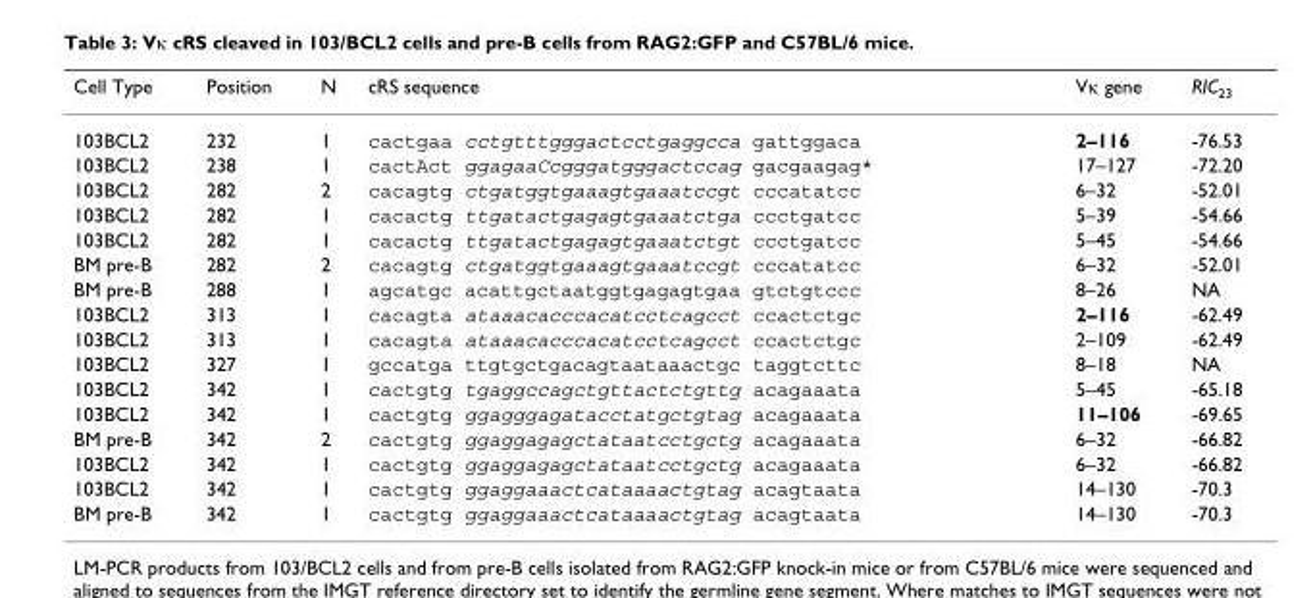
<table><thead><tr><td>Cell Type</td><td>Position</td><td>N</td><td>cRS sequence</td><td>Vκ gene</td><td>RIC<sub>23</sub></td></tr></thead><tbody><tr><td>103BCL2</td><td>232</td><td>1</td><td>cactgaa cctgtttgggactcctgaggcca gattggaca</td><td>2–116</td><td>-76.53</td></tr><tr><td>103BCL2</td><td>238</td><td>1</td><td>cactAct ggagaaCcgggatgggactccag gacgaagag*</td><td>17–127</td><td>-72.20</td></tr><tr><td>103BCL2</td><td>282</td><td>2</td><td>cacagtg ctgatggtgaaagtgaaatccgt cccatatcc</td><td>6–32</td><td>-52.01</td></tr><tr><td>103BCL2</td><td>282</td><td>1</td><td>cacactg ttgatactgagagtgaaatctga ccctgatcc</td><td>5–39</td><td>-54.66</td></tr><tr><td>103BCL2</td><td>282</td><td>1</td><td>cacactg ttgatactgagagtgaaatctgt ccctgatcc</td><td>5–45</td><td>-54.66</td></tr><tr><td>BM pre-B</td><td>282</td><td>2</td><td>cacagtg ctgatggtgaaagtgaaatccgt cccatatcc</td><td>6–32</td><td>-52.01</td></tr><tr><td>BM pre-B</td><td>288</td><td>1</td><td>agcatgc acattgctaatggtgagagtgaa gtctgtccc</td><td>8–26</td><td>NA</td></tr><tr><td>103BCL2</td><td>313</td><td>1</td><td>cacagta ataaacacccacatcctcagcct ccactctgc</td><td>2–116</td><td>-62.49</td></tr><tr><td>103BCL2</td><td>313</td><td>1</td><td>cacagta ataaacacccacatcctcagcct ccactctgc</td><td>2–109</td><td>-62.49</td></tr><tr><td>103BCL2</td><td>327</td><td>1</td><td>gccatga ttgtgctgacagtaataaactgc taggtcttc</td><td>8–18</td><td>NA</td></tr><tr><td>103BCL2</td><td>342</td><td>1</td><td>cactgtg tgaggccagctgttactctgttg acagaaata</td><td>5–45</td><td>-65.18</td></tr><tr><td>103BCL2</td><td>342</td><td>1</td><td>cactgtg ggagggagatacctatgctgtag acagaaata</td><td>11–106</td><td>-69.65</td></tr><tr><td>BM pre-B</td><td>342</td><td>2</td><td>cactgtg ggaggagagctataatcctgctg acagaaata</td><td>6–32</td><td>-66.82</td></tr><tr><td>103BCL2</td><td>342</td><td>1</td><td>cactgtg ggaggagagctataatcctgctg acagaaata</td><td>6–32</td><td>-66.82</td></tr><tr><td>103BCL2</td><td>342</td><td>1</td><td>cactgtg ggaggaaactcataaaactgtag acagtaata</td><td>14–130</td><td>-70.3</td></tr><tr><td>BM pre-B</td><td>342</td><td>1</td><td>cactgtg ggaggaaactcataaaactgtag acagtaata</td><td>14–130</td><td>-70.3</td></tr></tbody></table>